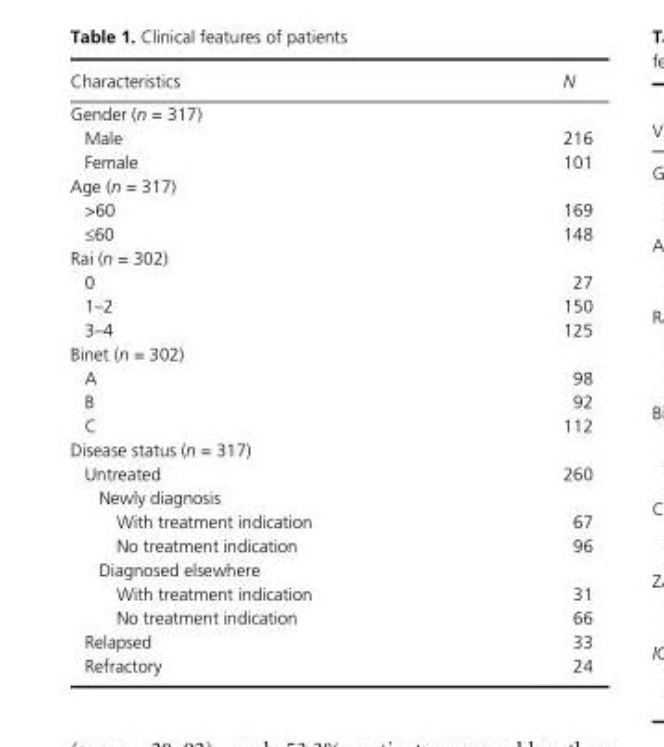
<table><thead><tr><td>Characteristics</td><td>N</td></tr></thead><tbody><tr><td colspan="2">Gender (n = 317)</td></tr><tr><td>Male</td><td>216</td></tr><tr><td>Female</td><td>101</td></tr><tr><td colspan="2">Age (n = 317)</td></tr><tr><td>&gt;60</td><td>169</td></tr><tr><td>≤60</td><td>148</td></tr><tr><td colspan="2">Rai (n = 302)</td></tr><tr><td>0</td><td>27</td></tr><tr><td>1–2</td><td>150</td></tr><tr><td>3–4</td><td>125</td></tr><tr><td colspan="2">Binet (n = 302)</td></tr><tr><td>A</td><td>98</td></tr><tr><td>B</td><td>92</td></tr><tr><td>C</td><td>112</td></tr><tr><td colspan="2">Disease status (n = 317)</td></tr><tr><td>Untreated</td><td>260</td></tr><tr><td colspan="2">Newly diagnosis</td></tr><tr><td>With treatment indication</td><td>67</td></tr><tr><td>No treatment indication</td><td>96</td></tr><tr><td colspan="2">Diagnosed elsewhere</td></tr><tr><td>With treatment indication</td><td>31</td></tr><tr><td>No treatment indication</td><td>66</td></tr><tr><td>Relapsed</td><td>33</td></tr><tr><td>Refractory</td><td>24</td></tr></tbody></table>